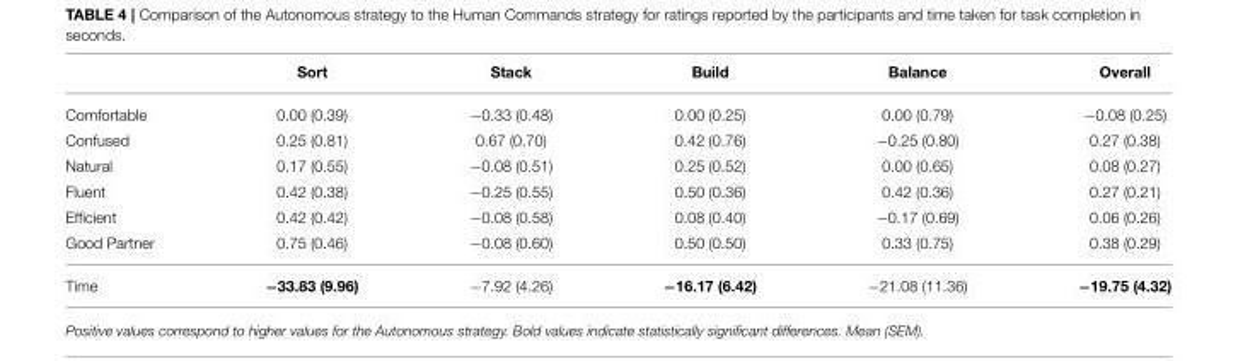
<table><thead><tr><td></td><td>Sort</td><td>Stack</td><td>Build</td><td>Balance</td><td>Overall</td></tr></thead><tbody><tr><td>Comfortable</td><td>0.00 (0.39)</td><td>−0.33 (0.48)</td><td>0.00 (0.25)</td><td>0.00 (0.79)</td><td>−0.08 (0.25)</td></tr><tr><td>Confused</td><td>0.25 (0.81)</td><td>0.67 (0.70)</td><td>0.42 (0.76)</td><td>−0.25 (0.80)</td><td>0.27 (0.38)</td></tr><tr><td>Natural</td><td>0.17 (0.55)</td><td>−0.08 (0.51)</td><td>0.25 (0.52)</td><td>0.00 (0.65)</td><td>0.08 (0.27)</td></tr><tr><td>Fluent</td><td>0.42 (0.38)</td><td>−0.25 (0.55)</td><td>0.50 (0.36)</td><td>0.42 (0.36)</td><td>0.27 (0.21)</td></tr><tr><td>Efficient</td><td>0.42 (0.42)</td><td>−0.08 (0.58)</td><td>0.08 (0.40)</td><td>−0.17 (0.69)</td><td>0.06 (0.26)</td></tr><tr><td>Good Partner</td><td>0.75 (0.46)</td><td>−0.08 (0.60)</td><td>0.50 (0.50)</td><td>0.33 (0.75)</td><td>0.38 (0.29)</td></tr><tr><td>Time</td><td>−33.83 (9.96)</td><td>−7.92 (4.26)</td><td>−16.17 (6.42)</td><td>−21.08 (11.36)</td><td>−19.75 (4.32)</td></tr></tbody></table>